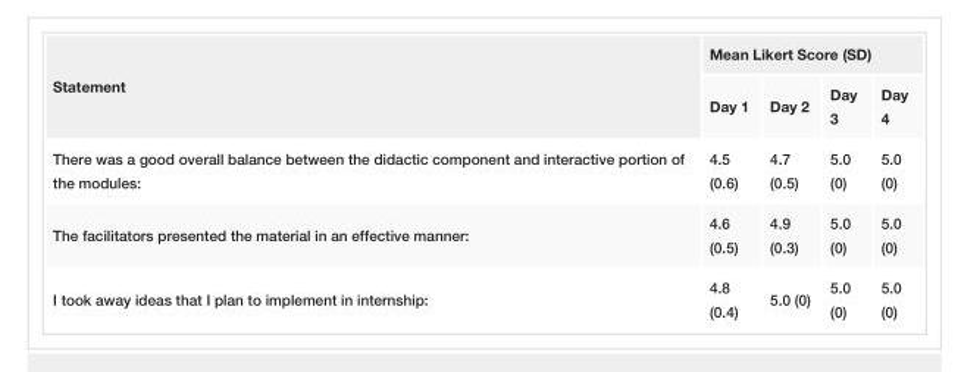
<table><tbody><tr><td rowspan="2">Statement</td><td colspan="4">Mean Likert Score (SD)</td></tr><tr><td>Day 1</td><td>Day 2</td><td>Day 3</td><td>Day 4</td></tr><tr><td>There was a good overall balance between the didactic component and interactive portion of the modules:</td><td>4.5 (0.6)</td><td>4.7 (0.5)</td><td>5.0 (0)</td><td>5.0 (0)</td></tr><tr><td>The facilitators presented the material in an effective manner:</td><td>4.6 (0.5)</td><td>4.9 (0.3)</td><td>5.0 (0)</td><td>5.0 (0)</td></tr><tr><td>I took away ideas that I plan to implement in internship:</td><td>4.8 (0.4)</td><td>5.0 (0)</td><td>5.0 (0)</td><td>5.0 (0)</td></tr></tbody></table>